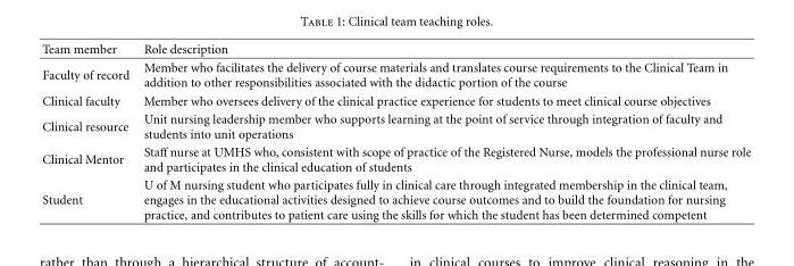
<table><thead><tr><td>Team member</td><td>Role description</td></tr></thead><tbody><tr><td>Faculty of record</td><td>Member who facilitates the delivery of course materials and translates course requirements to the Clinical Team in addition to other responsibilities associated with the didactic portion of the course</td></tr><tr><td>Clinical faculty</td><td>Member who oversees delivery of the clinical practice experience for students to meet clinical course objectives</td></tr><tr><td>Clinical resource</td><td>Unit nursing leadership member who supports learning at the point of service through integration of faculty and students into unit operations</td></tr><tr><td>Clinical Mentor</td><td>Staff nurse at UMHS who, consistent with scope of practice of the Registered Nurse, models the professional nurse role and participates in the clinical education of students</td></tr><tr><td>Student</td><td>U of M nursing student who participates fully in clinical care through integrated membership in the clinical team, engages in the educational activities designed to achieve course outcomes and to build the foundation for nursing practice, and contributes to patient care using the skills for which the student has been determined competent</td></tr></tbody></table>